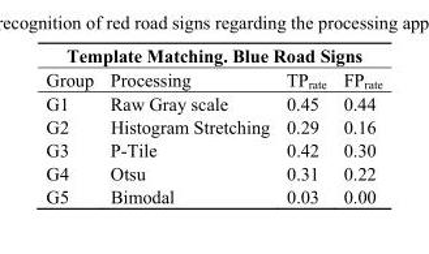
<table><thead><tr><td colspan="4">Template Matching. Blue Road Signs</td></tr><tr><td>Group</td><td>Processing</td><td>TP<sub>rate</sub></td><td>FP<sub>rate</sub></td></tr></thead><tbody><tr><td>G1</td><td>Raw Gray scale</td><td>0.45</td><td>0.44</td></tr><tr><td>G2</td><td>Histogram Stretching</td><td>0.29</td><td>0.16</td></tr><tr><td>G3</td><td>P-Tile</td><td>0.42</td><td>0.30</td></tr><tr><td>G4</td><td>Otsu</td><td>0.31</td><td>0.22</td></tr><tr><td>G5</td><td>Bimodal</td><td>0.03</td><td>0.00</td></tr></tbody></table>